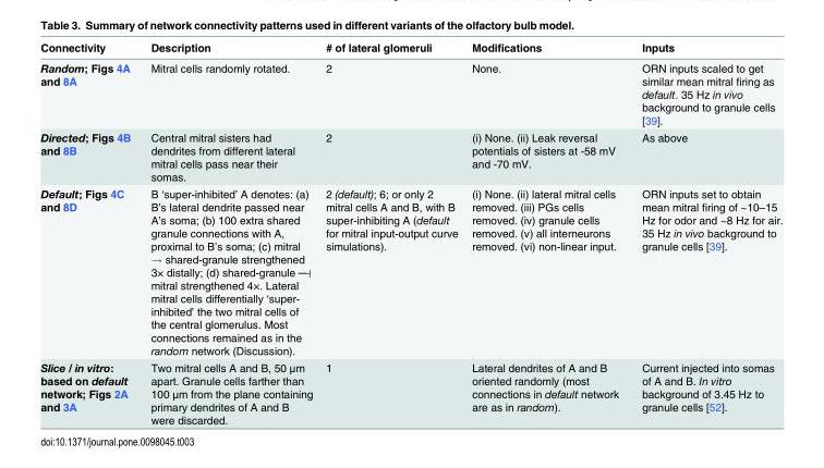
<table><thead><tr><td>Connectivity</td><td>Description</td><td># of lateral glomeruli</td><td>Modifications</td><td>Inputs</td></tr></thead><tbody><tr><td>Random; Figs 4A and 8A</td><td>Mitral cells randomly rotated.</td><td>2</td><td>None.</td><td>ORN inputs scaled to get similar mean mitral firing as default. 35 Hz in vivo background to granule cells [39].</td></tr><tr><td>Directed; Figs 4B and 8B</td><td>Central mitral sisters had dendrites from different lateral mitral cells pass near their somas.</td><td>2</td><td>(i) None. (ii) Leak reversal potentials of sisters at -58 mV and -70 mV.</td><td>As above</td></tr><tr><td>Default; Figs 4C and 8D</td><td>B ‘super-inhibited’ A denotes: (a) B’s lateral dendrite passed near A’s soma; (b) 100 extra shared granule connections with A, proximal to B’s soma; (c) mitral → shared-granule strengthened 3× distally; (d) shared-granule ─┤ mitral strengthened 4×. Lateral mitral cells differentially ‘super- inhibited’ the two mitral cells of the central glomerulus. Most connections remained as in the random network (Discussion).</td><td>2 (default); 6; or only 2 mitral cells A and B, with B super-inhibiting A (default for mitral input-output curve simulations).</td><td>(i) None. (ii) lateral mitral cells removed. (iii) PGs cells removed. (iv) granule cells removed. (v) all interneurons removed. (vi) non-linear input.</td><td>ORN inputs set to obtain mean mitral firing of ~10–15 Hz for odor and ~8 Hz for air. 35 Hz in vivo background to granule cells [39].</td></tr><tr><td>Slice / in vitro: based on default network; Figs 2A and 3A</td><td>Two mitral cells A and B, 50 μm apart. Granule cells farther than 100 μm from the plane containing primary dendrites of A and B were discarded.</td><td>1</td><td>Lateral dendrites of A and B oriented randomly (most connections in default network are as in random).</td><td>Current injected into somas of A and B. In vitro background of 3.45 Hz to granule cells [52].</td></tr></tbody></table>